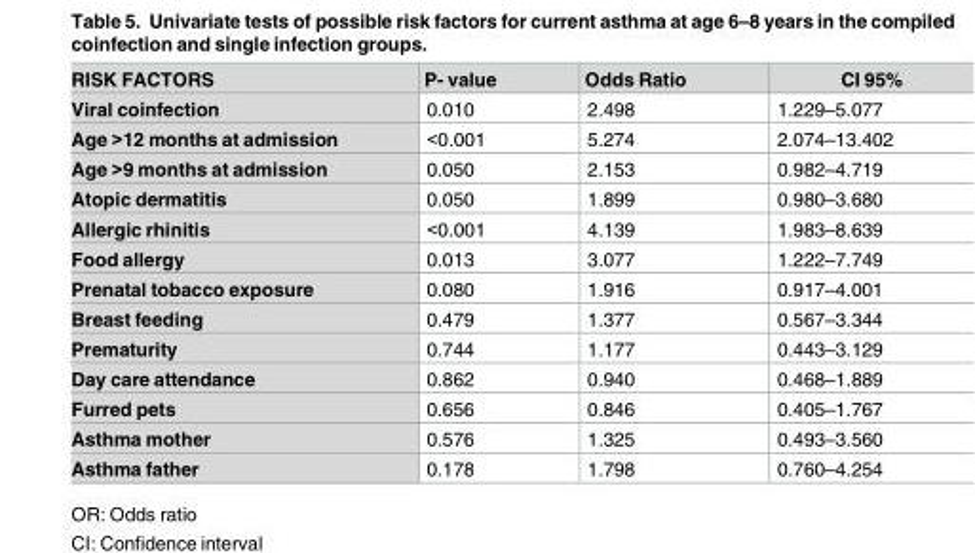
<table><thead><tr><td>RISK FACTORS</td><td>P- value</td><td>Odds Ratio</td><td>CI 95%</td></tr></thead><tbody><tr><td>Viral coinfection</td><td>0.010</td><td>2.498</td><td>1.229–5.077</td></tr><tr><td>Age &gt;12 months at admission</td><td>&lt;0.001</td><td>5.274</td><td>2.074–13.402</td></tr><tr><td>Age &gt;9 months at admission</td><td>0.050</td><td>2.153</td><td>0.982–4.719</td></tr><tr><td>Atopic dermatitis</td><td>0.050</td><td>1.899</td><td>0.980–3.680</td></tr><tr><td>Allergic rhinitis</td><td>&lt;0.001</td><td>4.139</td><td>1.983–8.639</td></tr><tr><td>Food allergy</td><td>0.013</td><td>3.077</td><td>1.222–7.749</td></tr><tr><td>Prenatal tobacco exposure</td><td>0.080</td><td>1.916</td><td>0.917–4.001</td></tr><tr><td>Breast feeding</td><td>0.479</td><td>1.377</td><td>0.567–3.344</td></tr><tr><td>Prematurity</td><td>0.744</td><td>1.177</td><td>0.443–3.129</td></tr><tr><td>Day care attendance</td><td>0.862</td><td>0.940</td><td>0.468–1.889</td></tr><tr><td>Furred pets</td><td>0.656</td><td>0.846</td><td>0.405–1.767</td></tr><tr><td>Asthma mother</td><td>0.576</td><td>1.325</td><td>0.493–3.560</td></tr><tr><td>Asthma father</td><td>0.178</td><td>1.798</td><td>0.760–4.254</td></tr></tbody></table>